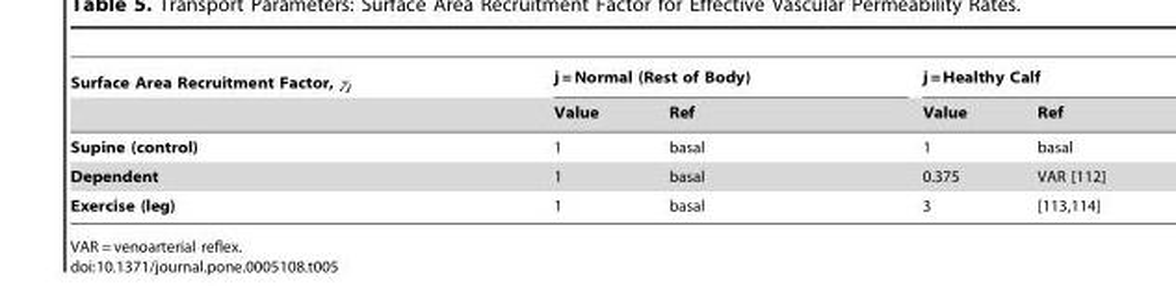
<table><thead><tr><td rowspan="2">Surface Area Recruitment Factor, γ<sub>j</sub></td><td colspan="2">j = Normal (Rest of Body)</td><td colspan="2">j = Healthy Calf</td></tr><tr><td>Value</td><td>Ref</td><td>Value</td><td>Ref</td></tr></thead><tbody><tr><td>Supine (control)</td><td>1</td><td>basal</td><td>1</td><td>basal</td></tr><tr><td>Dependent</td><td>1</td><td>basal</td><td>0.375</td><td>VAR [112]</td></tr><tr><td>Exercise (leg)</td><td>1</td><td>basal</td><td>3</td><td>[113,114]</td></tr></tbody></table>